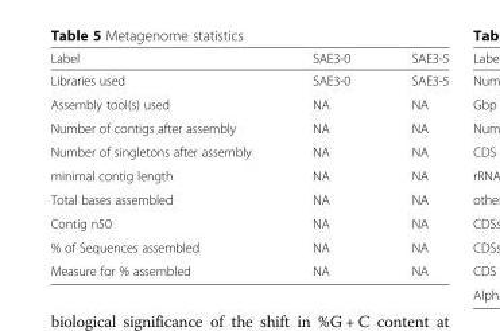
<table><thead><tr><td>Label</td><td>SAE3-0</td><td>SAE3-5</td></tr></thead><tbody><tr><td>Libraries used</td><td>SAE3-0</td><td>SAE3-5</td></tr><tr><td>Assembly tool(s) used</td><td>NA</td><td>NA</td></tr><tr><td>Number of contigs after assembly</td><td>NA</td><td>NA</td></tr><tr><td>Number of singletons after assembly</td><td>NA</td><td>NA</td></tr><tr><td>minimal contig length</td><td>NA</td><td>NA</td></tr><tr><td>Total bases assembled</td><td>NA</td><td>NA</td></tr><tr><td>Contig n50</td><td>NA</td><td>NA</td></tr><tr><td>% of Sequences assembled</td><td>NA</td><td>NA</td></tr><tr><td>Measure for % assembled</td><td>NA</td><td>NA</td></tr></tbody></table>